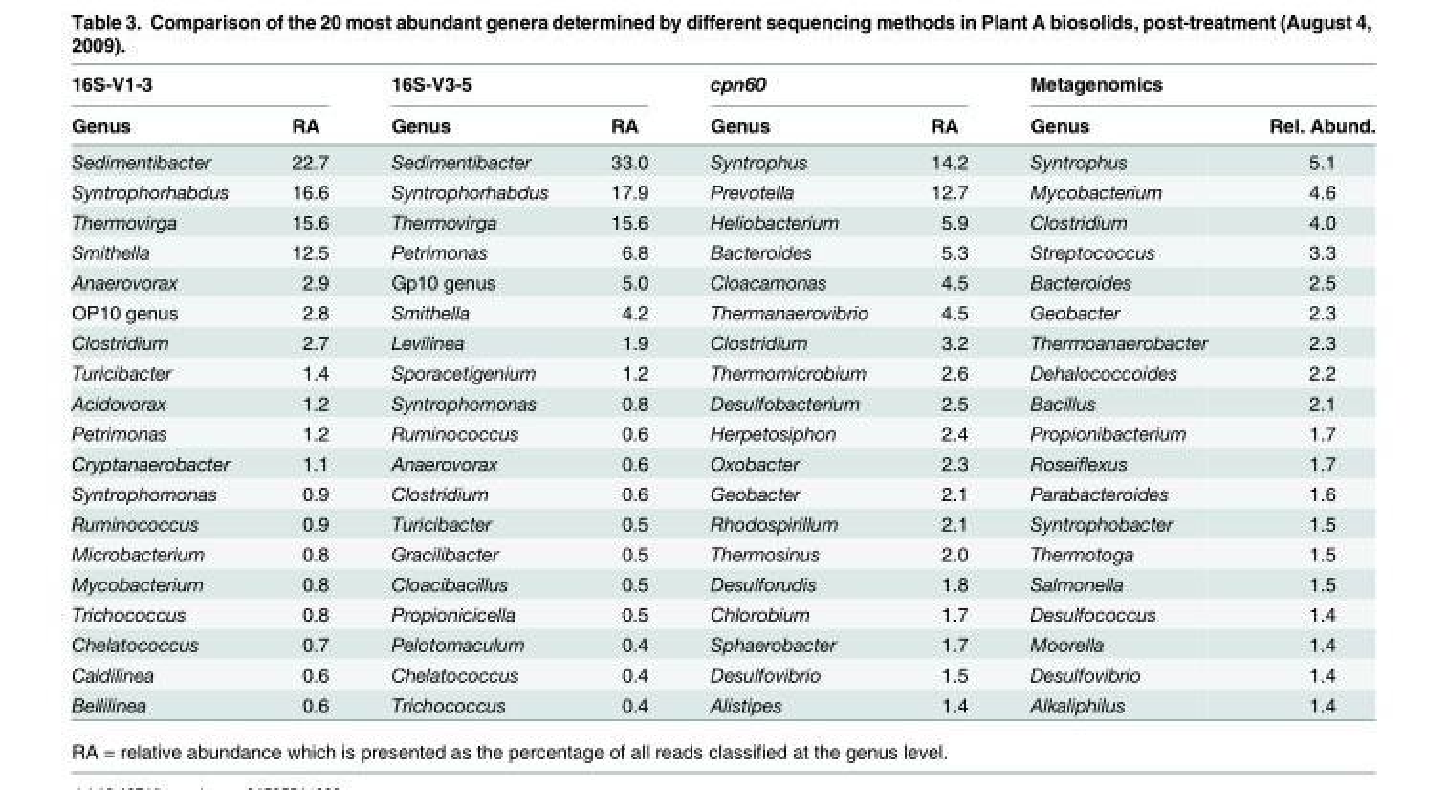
<table><thead><tr><td rowspan="2">16S-V1-3 Genus</td><td rowspan="2">RA</td><td rowspan="2">16S-V3-5 Genus</td><td rowspan="2">RA</td><td rowspan="2">cpn60 Genus</td><td rowspan="2">RA</td><td colspan="2">Metagenomics</td></tr><tr><td>Genus</td><td>Rel. Abund.</td></tr></thead><tbody><tr><td>Sedimentibacter</td><td>22.7</td><td>Sedimentibacter</td><td>33.0</td><td>Syntrophus</td><td>14.2</td><td>Syntrophus</td><td>5.1</td></tr><tr><td>Syntrophorhabdus</td><td>16.6</td><td>Syntrophorhabdus</td><td>17.9</td><td>Prevotella</td><td>12.7</td><td>Mycobacterium</td><td>4.6</td></tr><tr><td>Thermovirga</td><td>15.6</td><td>Thermovirga</td><td>15.6</td><td>Heliobacterium</td><td>5.9</td><td>Clostridium</td><td>4.0</td></tr><tr><td>Smithella</td><td>12.5</td><td>Petrimonas</td><td>6.8</td><td>Bacteroides</td><td>5.3</td><td>Streptococcus</td><td>3.3</td></tr><tr><td>Anaerovorax</td><td>2.9</td><td>Gp10 genus</td><td>5.0</td><td>Cloacamonas</td><td>4.5</td><td>Bacteroides</td><td>2.5</td></tr><tr><td>OP10 genus</td><td>2.8</td><td>Smithella</td><td>4.2</td><td>Thermanaerovibrio</td><td>4.5</td><td>Geobacter</td><td>2.3</td></tr><tr><td>Clostridium</td><td>2.7</td><td>Levilinea</td><td>1.9</td><td>Clostridium</td><td>3.2</td><td>Thermoanaerobacter</td><td>2.3</td></tr><tr><td>Turicibacter</td><td>1.4</td><td>Sporacetigenium</td><td>1.2</td><td>Thermomicrobium</td><td>2.6</td><td>Dehalococcoides</td><td>2.2</td></tr><tr><td>Acidovorax</td><td>1.2</td><td>Syntrophomonas</td><td>0.8</td><td>Desulfobacterium</td><td>2.5</td><td>Bacillus</td><td>2.1</td></tr><tr><td>Petrimonas</td><td>1.2</td><td>Ruminococcus</td><td>0.6</td><td>Herpetosiphon</td><td>2.4</td><td>Propionibacterium</td><td>1.7</td></tr><tr><td>Cryptanaerobacter</td><td>1.1</td><td>Anaerovorax</td><td>0.6</td><td>Oxobacter</td><td>2.3</td><td>Roseiflexus</td><td>1.7</td></tr><tr><td>Syntrophomonas</td><td>0.9</td><td>Clostridium</td><td>0.6</td><td>Geobacter</td><td>2.1</td><td>Parabacteroides</td><td>1.6</td></tr><tr><td>Ruminococcus</td><td>0.9</td><td>Turicibacter</td><td>0.5</td><td>Rhodospirillum</td><td>2.1</td><td>Syntrophobacter</td><td>1.5</td></tr><tr><td>Microbacterium</td><td>0.8</td><td>Gracilibacter</td><td>0.5</td><td>Thermosinus</td><td>2.0</td><td>Thermotoga</td><td>1.5</td></tr><tr><td>Mycobacterium</td><td>0.8</td><td>Cloacibacillus</td><td>0.5</td><td>Desulforudis</td><td>1.8</td><td>Salmonella</td><td>1.5</td></tr><tr><td>Trichococcus</td><td>0.8</td><td>Propionicicella</td><td>0.5</td><td>Chlorobium</td><td>1.7</td><td>Desulfococcus</td><td>1.4</td></tr><tr><td>Chelatococcus</td><td>0.7</td><td>Pelotomaculum</td><td>0.4</td><td>Sphaerobacter</td><td>1.7</td><td>Moorella</td><td>1.4</td></tr><tr><td>Caldilinea</td><td>0.6</td><td>Chelatococcus</td><td>0.4</td><td>Desulfovibrio</td><td>1.5</td><td>Desulfovibrio</td><td>1.4</td></tr><tr><td>Bellilinea</td><td>0.6</td><td>Trichococcus</td><td>0.4</td><td>Alistipes</td><td>1.4</td><td>Alkaliphilus</td><td>1.4</td></tr></tbody></table>